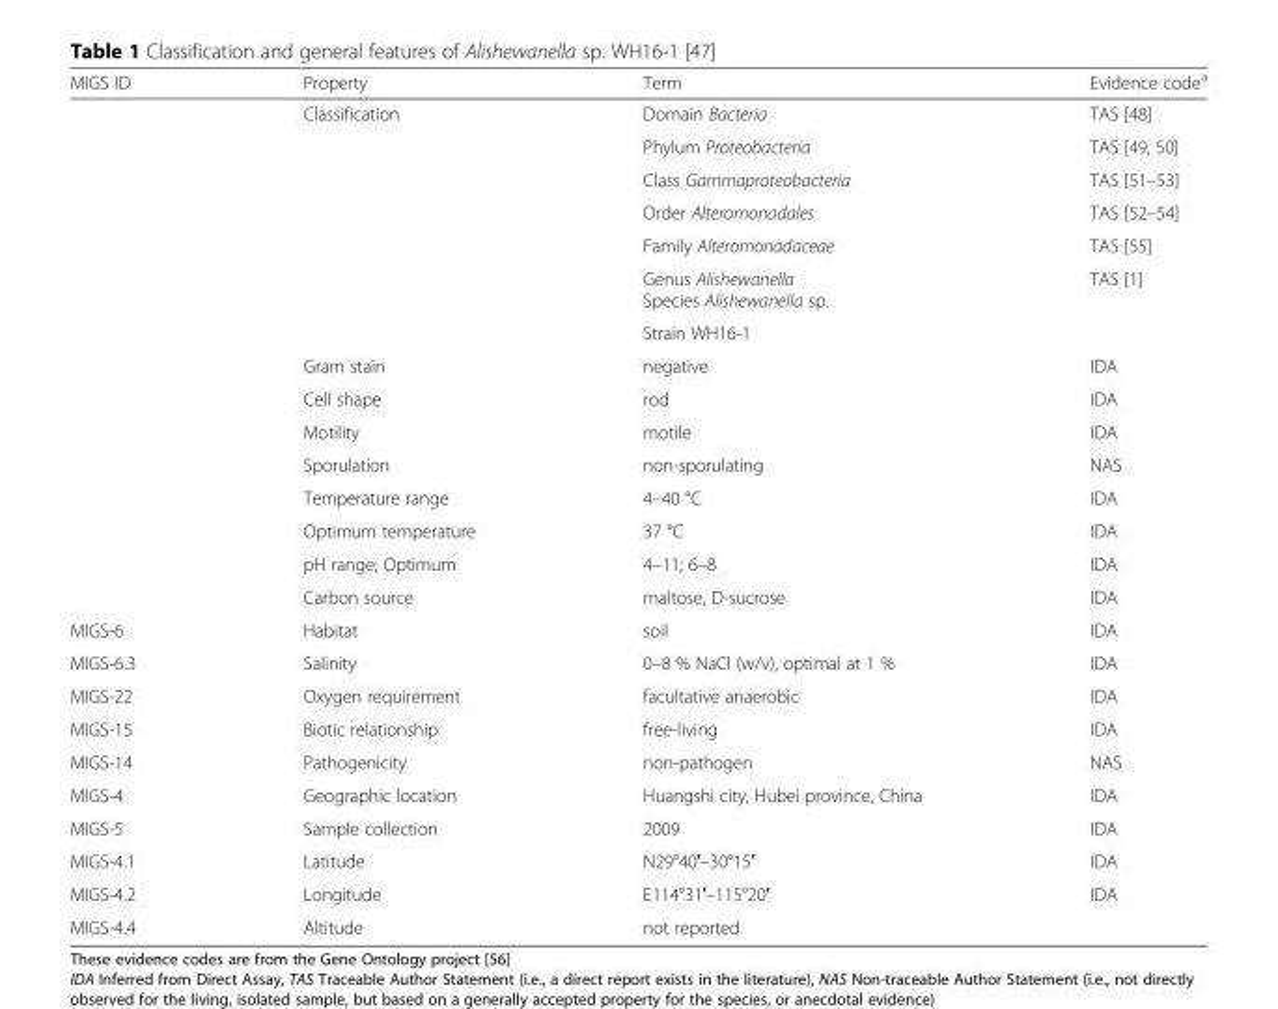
<table><thead><tr><td>MIGS ID</td><td>Property</td><td>Term</td><td>Evidence code<sup>a</sup></td></tr></thead><tbody><tr><td></td><td>Classification</td><td>Domain Bacteria</td><td>TAS [48]</td></tr><tr><td></td><td></td><td>Phylum Proteobacteria</td><td>TAS [49, 50]</td></tr><tr><td></td><td></td><td>Class Gammaproteobacteria</td><td>TAS [51–53]</td></tr><tr><td></td><td></td><td>Order Alteromonadales</td><td>TAS [52–54]</td></tr><tr><td></td><td></td><td>Family Alteromonadaceae</td><td>TAS [55]</td></tr><tr><td></td><td></td><td>Genus Alishewanella Species Alishewanella sp.</td><td>TAS [1]</td></tr><tr><td></td><td></td><td>Strain WH16-1</td><td></td></tr><tr><td></td><td>Gram stain</td><td>negative</td><td>IDA</td></tr><tr><td></td><td>Cell shape</td><td>rod</td><td>IDA</td></tr><tr><td></td><td>Motility</td><td>motile</td><td>IDA</td></tr><tr><td></td><td>Sporulation</td><td>non-sporulating</td><td>NAS</td></tr><tr><td></td><td>Temperature range</td><td>4–40 °C</td><td>IDA</td></tr><tr><td></td><td>Optimum temperature</td><td>37 °C</td><td>IDA</td></tr><tr><td></td><td>pH range; Optimum</td><td>4–11; 6–8</td><td>IDA</td></tr><tr><td></td><td>Carbon source</td><td>maltose, D-sucrose</td><td>IDA</td></tr><tr><td>MIGS-6</td><td>Habitat</td><td>soil</td><td>IDA</td></tr><tr><td>MIGS-6.3</td><td>Salinity</td><td>0–8 % NaCl (w/v), optimal at 1 %</td><td>IDA</td></tr><tr><td>MIGS-22</td><td>Oxygen requirement</td><td>facultative anaerobic</td><td>IDA</td></tr><tr><td>MIGS-15</td><td>Biotic relationship</td><td>free-living</td><td>IDA</td></tr><tr><td>MIGS-14</td><td>Pathogenicity</td><td>non-pathogen</td><td>NAS</td></tr><tr><td>MIGS-4</td><td>Geographic location</td><td>Huangshi city, Hubei province, China</td><td>IDA</td></tr><tr><td>MIGS-5</td><td>Sample collection</td><td>2009</td><td>IDA</td></tr><tr><td>MIGS-4.1</td><td>Latitude</td><td>N29°40′–30°15′</td><td>IDA</td></tr><tr><td>MIGS-4.2</td><td>Longitude</td><td>E114°31′–115°20′</td><td>IDA</td></tr><tr><td>MIGS-4.4</td><td>Altitude</td><td>not reported</td><td></td></tr></tbody></table>